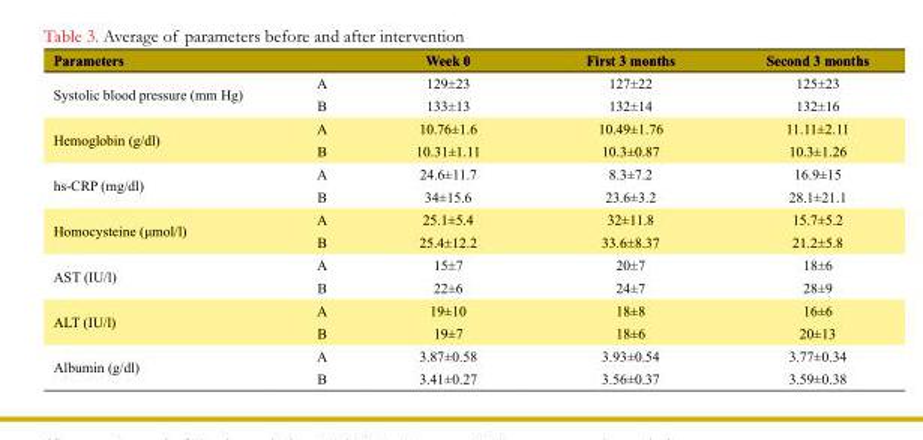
<table><tbody><tr><td>Parameters</td><td></td><td>Week 0</td><td>First 3 months</td><td>Second 3 months</td></tr><tr><td rowspan="2">Systolic blood pressure (mm Hg)</td><td>A</td><td>129±23</td><td>127±22</td><td>125±23</td></tr><tr><td>B</td><td>133±13</td><td>132±14</td><td>132±16</td></tr><tr><td rowspan="2">Hemoglobin (g/dl)</td><td>A</td><td>10.76±1.6</td><td>10.49±1.76</td><td>11.11±2.11</td></tr><tr><td>B</td><td>10.31±1.11</td><td>10.3±0.87</td><td>10.3±1.26</td></tr><tr><td rowspan="2">hs-CRP (mg/dl)</td><td>A</td><td>24.6±11.7</td><td>8.3±7.2</td><td>16.9±15</td></tr><tr><td>B</td><td>34±15.6</td><td>23.6±3.2</td><td>28.1±21.1</td></tr><tr><td rowspan="2">Homocysteine (μmol/l)</td><td>A</td><td>25.1±5.4</td><td>32±11.8</td><td>15.7±5.2</td></tr><tr><td>B</td><td>25.4±12.2</td><td>33.6±8.37</td><td>21.2±5.8</td></tr><tr><td rowspan="2">AST (IU/l)</td><td>A</td><td>15±7</td><td>20±7</td><td>18±6</td></tr><tr><td>B</td><td>22±6</td><td>24±7</td><td>28±9</td></tr><tr><td rowspan="2">ALT (IU/l)</td><td>A</td><td>19±10</td><td>18±8</td><td>16±6</td></tr><tr><td>B</td><td>19±7</td><td>18±6</td><td>20±13</td></tr><tr><td rowspan="2">Albumin (g/dl)</td><td>A</td><td>3.87±0.58</td><td>3.93±0.54</td><td>3.77±0.34</td></tr><tr><td>B</td><td>3.41±0.27</td><td>3.56±0.37</td><td>3.59±0.38</td></tr></tbody></table>